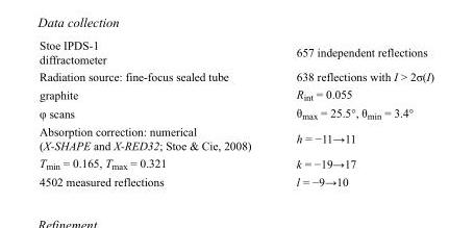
<table><tbody><tr><td>Stoe IPDS-1 diffractometer</td><td>657 independent reflections</td></tr><tr><td>Radiation source: fine-focus sealed tube</td><td>638 reflections with I &gt; 2σ(I)</td></tr><tr><td>graphite</td><td>R<sub>int</sub> = 0.055</td></tr><tr><td>φ scans</td><td>θ<sub>max</sub> = 25.5°, θ<sub>min</sub> = 3.4°</td></tr><tr><td>Absorption correction: numerical (X-SHAPE and X-RED32; Stoe &amp; Cie, 2008)</td><td>h = −11→11</td></tr><tr><td>T<sub>min</sub> = 0.165, T<sub>max</sub> = 0.321</td><td>k = −19→17</td></tr><tr><td>4502 measured reflections</td><td>l = −9→10</td></tr></tbody></table>